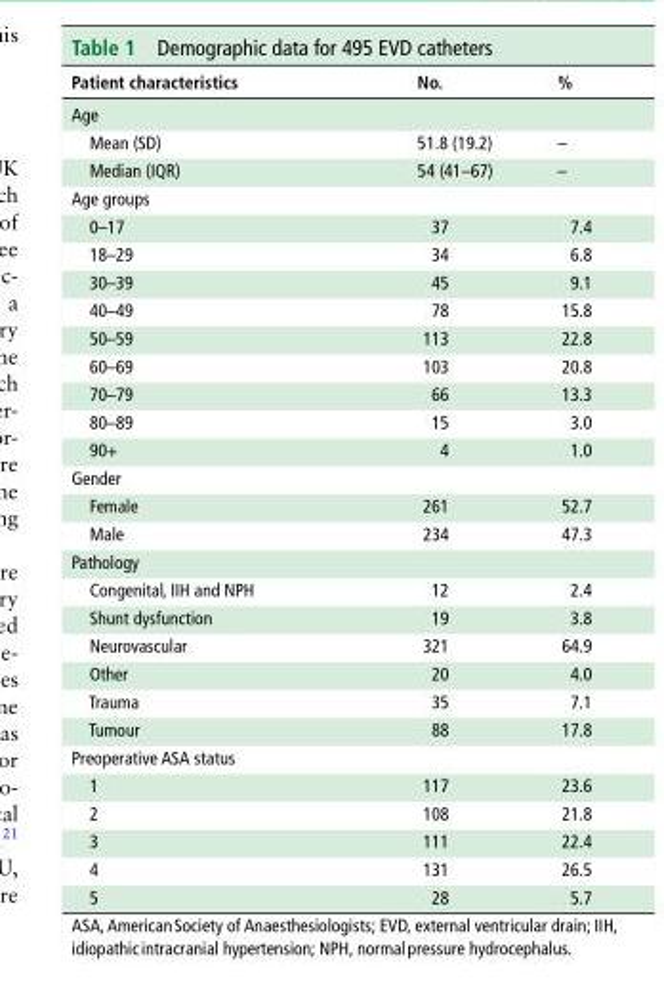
<table><thead><tr><td>Patient characteristics</td><td>No.</td><td>%</td></tr></thead><tbody><tr><td colspan="3">Age</td></tr><tr><td>Mean (SD)</td><td>51.8 (19.2)</td><td>–</td></tr><tr><td>Median (IQR)</td><td>54 (41–67)</td><td>–</td></tr><tr><td colspan="3">Age groups</td></tr><tr><td>0–17</td><td>37</td><td>7.4</td></tr><tr><td>18–29</td><td>34</td><td>6.8</td></tr><tr><td>30–39</td><td>45</td><td>9.1</td></tr><tr><td>40–49</td><td>78</td><td>15.8</td></tr><tr><td>50–59</td><td>113</td><td>22.8</td></tr><tr><td>60–69</td><td>103</td><td>20.8</td></tr><tr><td>70–79</td><td>66</td><td>13.3</td></tr><tr><td>80–89</td><td>15</td><td>3.0</td></tr><tr><td>90+</td><td>4</td><td>1.0</td></tr><tr><td colspan="3">Gender</td></tr><tr><td>Female</td><td>261</td><td>52.7</td></tr><tr><td>Male</td><td>234</td><td>47.3</td></tr><tr><td colspan="3">Pathology</td></tr><tr><td>Congenital, IIH and NPH</td><td>12</td><td>2.4</td></tr><tr><td>Shunt dysfunction</td><td>19</td><td>3.8</td></tr><tr><td>Neurovascular</td><td>321</td><td>64.9</td></tr><tr><td>Other</td><td>20</td><td>4.0</td></tr><tr><td>Trauma</td><td>35</td><td>7.1</td></tr><tr><td>Tumour</td><td>88</td><td>17.8</td></tr><tr><td colspan="3">Preoperative ASA status</td></tr><tr><td>1</td><td>117</td><td>23.6</td></tr><tr><td>2</td><td>108</td><td>21.8</td></tr><tr><td>3</td><td>111</td><td>22.4</td></tr><tr><td>4</td><td>131</td><td>26.5</td></tr><tr><td>5</td><td>28</td><td>5.7</td></tr></tbody></table>